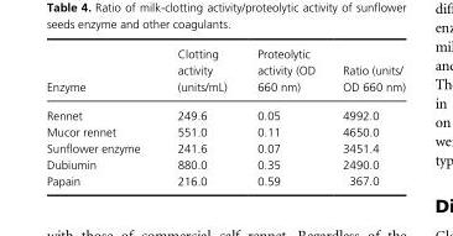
<table><thead><tr><td>Enzyme</td><td>Clotting activity (units/mL)</td><td>Proteolytic activity (OD 660 nm)</td><td>Ratio (units/ OD 660 nm)</td></tr></thead><tbody><tr><td>Rennet</td><td>249.6</td><td>0.05</td><td>4992.0</td></tr><tr><td>Mucor rennet</td><td>551.0</td><td>0.11</td><td>4650.0</td></tr><tr><td>Sunflower enzyme</td><td>241.6</td><td>0.07</td><td>3451.4</td></tr><tr><td>Dubiumin</td><td>880.0</td><td>0.35</td><td>2490.0</td></tr><tr><td>Papain</td><td>216.0</td><td>0.59</td><td>367.0</td></tr></tbody></table>